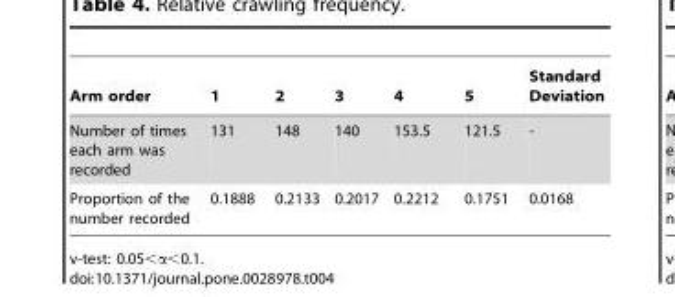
<table><thead><tr><td>Arm order</td><td>1</td><td>2</td><td>3</td><td>4</td><td>5</td><td>Standard Deviation</td></tr></thead><tbody><tr><td>Number of times each arm was recorded</td><td>131</td><td>148</td><td>140</td><td>153.5</td><td>121.5</td><td>-</td></tr><tr><td>Proportion of the number recorded</td><td>0.1888</td><td>0.2133</td><td>0.2017</td><td>0.2212</td><td>0.1751</td><td>0.0168</td></tr></tbody></table>